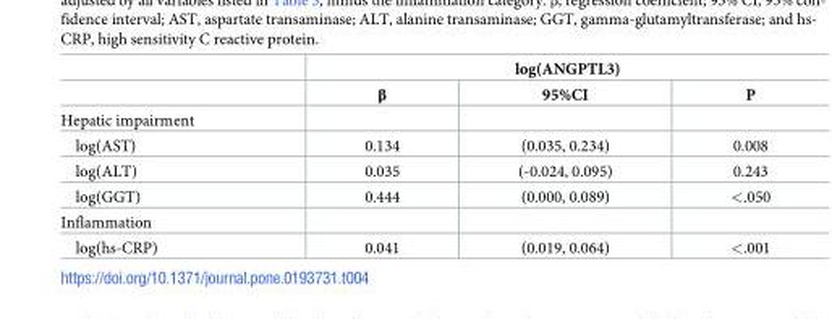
<table><thead><tr><td rowspan="2"></td><td colspan="3">log(ANGPTL3)</td></tr><tr><td>β</td><td>95%CI</td><td>P</td></tr></thead><tbody><tr><td colspan="4">Hepatic impairment</td></tr><tr><td>log(AST)</td><td>0.134</td><td>(0.035, 0.234)</td><td>0.008</td></tr><tr><td>log(ALT)</td><td>0.035</td><td>(-0.024, 0.095)</td><td>0.243</td></tr><tr><td>log(GGT)</td><td>0.444</td><td>(0.000, 0.089)</td><td>&lt;.050</td></tr><tr><td colspan="4">Inflammation</td></tr><tr><td>log(hs-CRP)</td><td>0.041</td><td>(0.019, 0.064)</td><td>&lt;.001</td></tr></tbody></table>